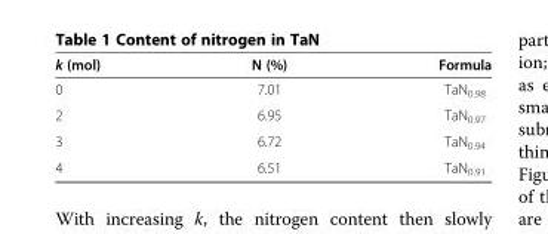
<table><thead><tr><td>k (mol)</td><td>N (%)</td><td>Formula</td></tr></thead><tbody><tr><td>0</td><td>7.01</td><td>TaN<sub>0.98</sub></td></tr><tr><td>2</td><td>6.95</td><td>TaN<sub>0.97</sub></td></tr><tr><td>3</td><td>6.72</td><td>TaN<sub>0.94</sub></td></tr><tr><td>4</td><td>6.51</td><td>TaN<sub>0.91</sub></td></tr></tbody></table>